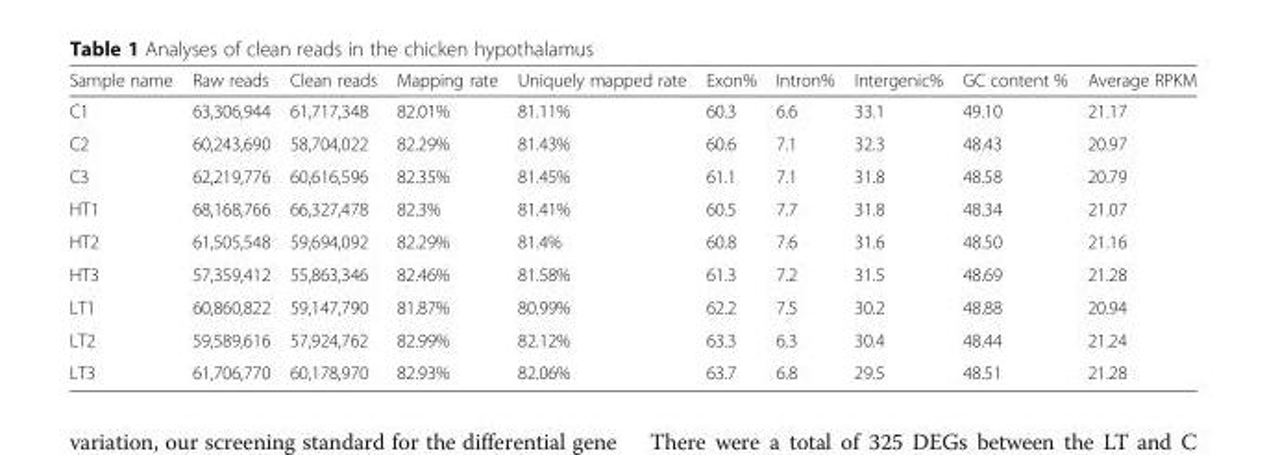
<table><thead><tr><td>Sample name</td><td>Raw reads</td><td>Clean reads</td><td>Mapping rate</td><td>Uniquely mapped rate</td><td>Exon%</td><td>Intron%</td><td>Intergenic%</td><td>GC content %</td><td>Average RPKM</td></tr></thead><tbody><tr><td>C1</td><td>63,306,944</td><td>61,717,348</td><td>82.01%</td><td>81.11%</td><td>60.3</td><td>6.6</td><td>33.1</td><td>49.10</td><td>21.17</td></tr><tr><td>C2</td><td>60,243,690</td><td>58,704,022</td><td>82.29%</td><td>81.43%</td><td>60.6</td><td>7.1</td><td>32.3</td><td>48.43</td><td>20.97</td></tr><tr><td>C3</td><td>62,219,776</td><td>60,616,596</td><td>82.35%</td><td>81.45%</td><td>61.1</td><td>7.1</td><td>31.8</td><td>48.58</td><td>20.79</td></tr><tr><td>HT1</td><td>68,168,766</td><td>66,327,478</td><td>82.3%</td><td>81.41%</td><td>60.5</td><td>7.7</td><td>31.8</td><td>48.34</td><td>21.07</td></tr><tr><td>HT2</td><td>61,505,548</td><td>59,694,092</td><td>82.29%</td><td>81.4%</td><td>60.8</td><td>7.6</td><td>31.6</td><td>48.50</td><td>21.16</td></tr><tr><td>HT3</td><td>57,359,412</td><td>55,863,346</td><td>82.46%</td><td>81.58%</td><td>61.3</td><td>7.2</td><td>31.5</td><td>48.69</td><td>21.28</td></tr><tr><td>LT1</td><td>60,860,822</td><td>59,147,790</td><td>81.87%</td><td>80.99%</td><td>62.2</td><td>7.5</td><td>30.2</td><td>48.88</td><td>20.94</td></tr><tr><td>LT2</td><td>59,589,616</td><td>57,924,762</td><td>82.99%</td><td>82.12%</td><td>63.3</td><td>6.3</td><td>30.4</td><td>48.44</td><td>21.24</td></tr><tr><td>LT3</td><td>61,706,770</td><td>60,178,970</td><td>82.93%</td><td>82.06%</td><td>63.7</td><td>6.8</td><td>29.5</td><td>48.51</td><td>21.28</td></tr></tbody></table>